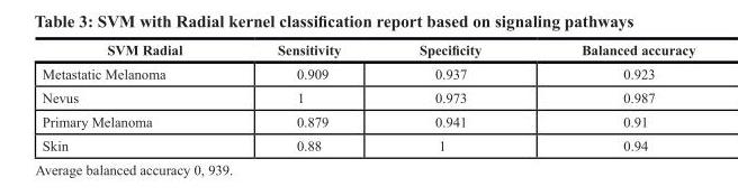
<table><thead><tr><td>SVM Radial</td><td>Sensitivity</td><td>Specificity</td><td>Balanced accuracy</td></tr></thead><tbody><tr><td>Metastatic Melanoma</td><td>0.909</td><td>0.937</td><td>0.923</td></tr><tr><td>Nevus</td><td>1</td><td>0.973</td><td>0.987</td></tr><tr><td>Primary Melanoma</td><td>0.879</td><td>0.941</td><td>0.91</td></tr><tr><td>Skin</td><td>0.88</td><td>1</td><td>0.94</td></tr></tbody></table>